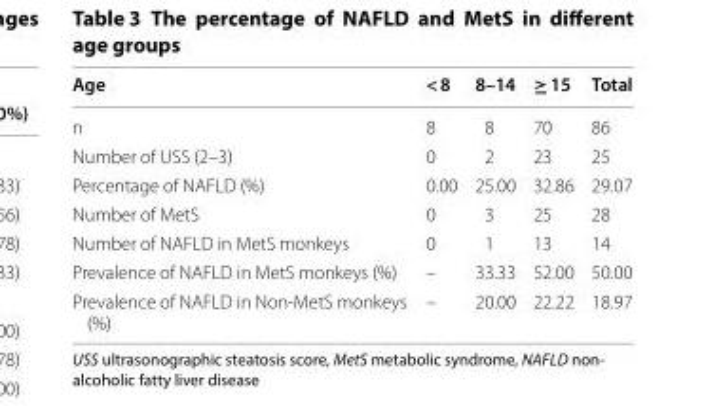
<table><thead><tr><td>Age</td><td>&lt; 8</td><td>8–14</td><td>≥ 15</td><td>Total</td></tr></thead><tbody><tr><td>n</td><td>8</td><td>8</td><td>70</td><td>86</td></tr><tr><td>Number of USS (2–3)</td><td>0</td><td>2</td><td>23</td><td>25</td></tr><tr><td>Percentage of NAFLD (%)</td><td>0.00</td><td>25.00</td><td>32.86</td><td>29.07</td></tr><tr><td>Number of MetS</td><td>0</td><td>3</td><td>25</td><td>28</td></tr><tr><td>Number of NAFLD in MetS monkeys</td><td>0</td><td>1</td><td>13</td><td>14</td></tr><tr><td>Prevalence of NAFLD in MetS monkeys (%)</td><td>–</td><td>33.33</td><td>52.00</td><td>50.00</td></tr><tr><td>Prevalence of NAFLD in Non‑MetS monkeys (%)</td><td>–</td><td>20.00</td><td>22.22</td><td>18.97</td></tr></tbody></table>